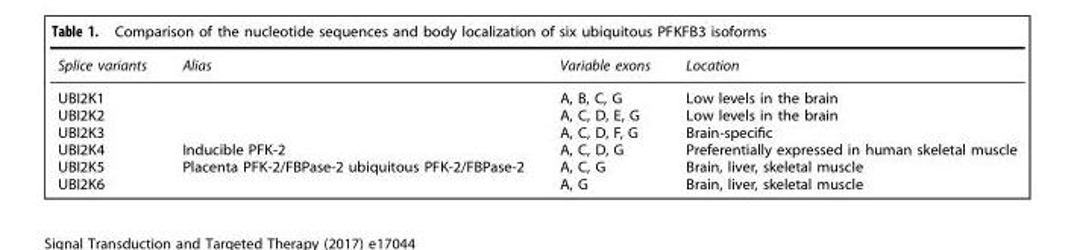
<table><thead><tr><td>Splice variants</td><td>Alias</td><td>Variable exons</td><td>Location</td></tr></thead><tbody><tr><td>UBI2K1</td><td></td><td>A, B, C, G</td><td>Low levels in the brain</td></tr><tr><td>UBI2K2</td><td></td><td>A, C, D, E, G</td><td>Low levels in the brain</td></tr><tr><td>UBI2K3</td><td></td><td>A, C, D, F, G</td><td>Brain-specific</td></tr><tr><td>UBI2K4</td><td>Inducible PFK-2</td><td>A, C, D, G</td><td>Preferentially expressed in human skeletal muscle</td></tr><tr><td>UBI2K5</td><td>Placenta PFK-2/FBPase-2 ubiquitous PFK-2/FBPase-2</td><td>A, C, G</td><td>Brain, liver, skeletal muscle</td></tr><tr><td>UBI2K6</td><td></td><td>A, G</td><td>Brain, liver, skeletal muscle</td></tr></tbody></table>